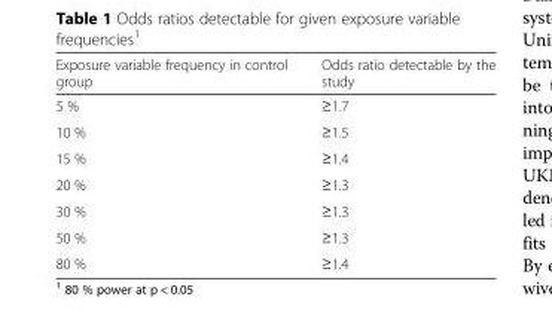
<table><thead><tr><td>Exposure variable frequency in control group</td><td>Odds ratio detectable by the study</td></tr></thead><tbody><tr><td>5 %</td><td>≥1.7</td></tr><tr><td>10 %</td><td>≥1.5</td></tr><tr><td>15 %</td><td>≥1.4</td></tr><tr><td>20 %</td><td>≥1.3</td></tr><tr><td>30 %</td><td>≥1.3</td></tr><tr><td>50 %</td><td>≥1.3</td></tr><tr><td>80 %</td><td>≥1.4</td></tr></tbody></table>